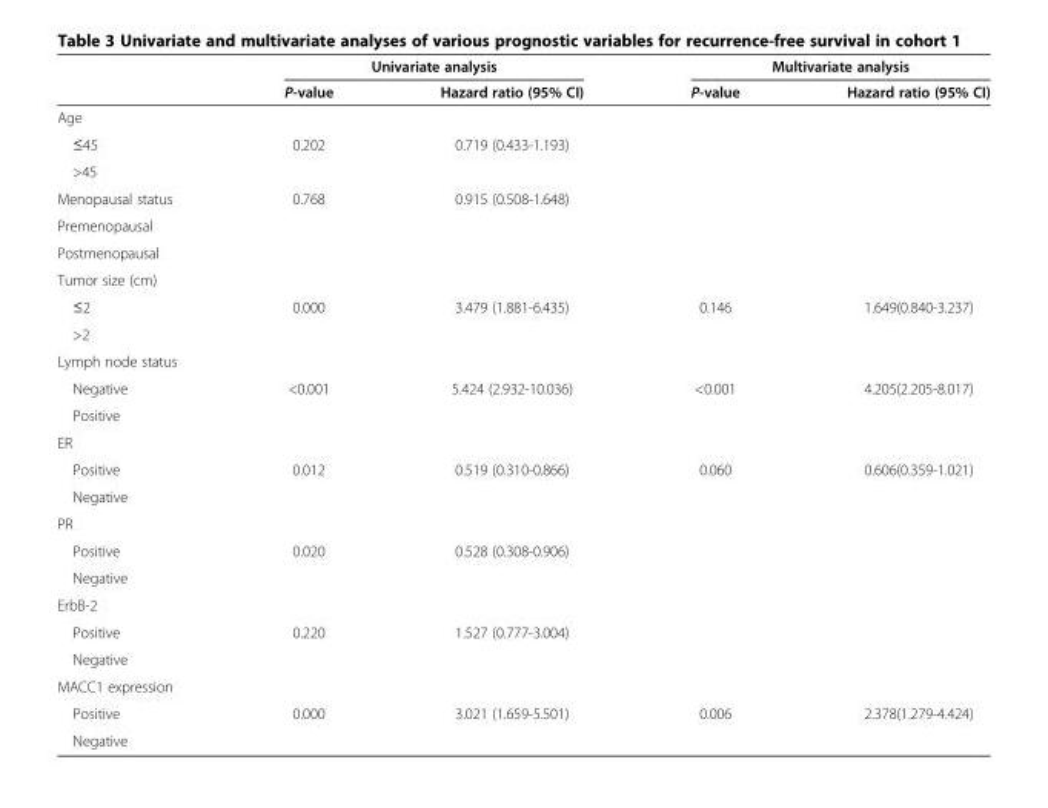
<table><thead><tr><td rowspan="2"></td><td colspan="2">Univariate analysis</td><td colspan="2">Multivariate analysis</td></tr><tr><td>P-value</td><td>Hazard ratio (95% CI)</td><td>P-value</td><td>Hazard ratio (95% CI)</td></tr></thead><tbody><tr><td colspan="5">Age</td></tr><tr><td>≤45</td><td>0.202</td><td>0.719 (0.433-1.193)</td><td></td><td></td></tr><tr><td colspan="5">&gt;45</td></tr><tr><td>Menopausal status</td><td>0.768</td><td>0.915 (0.508-1.648)</td><td></td><td></td></tr><tr><td colspan="5">Premenopausal</td></tr><tr><td colspan="5">Postmenopausal</td></tr><tr><td colspan="5">Tumor size (cm)</td></tr><tr><td>≤2</td><td rowspan="2">0.000</td><td rowspan="2">3.479 (1.881-6.435)</td><td rowspan="2">0.146</td><td rowspan="2">1.649(0.840-3.237)</td></tr><tr><td>&gt;2</td></tr><tr><td colspan="5">Lymph node status</td></tr><tr><td>Negative</td><td rowspan="2">&lt;0.001</td><td rowspan="2">5.424 (2.932-10.036)</td><td rowspan="2">&lt;0.001</td><td rowspan="2">4.205(2.205-8.017)</td></tr><tr><td>Positive</td></tr><tr><td colspan="5">ER</td></tr><tr><td>Positive</td><td rowspan="2">0.012</td><td rowspan="2">0.519 (0.310-0.866)</td><td rowspan="2">0.060</td><td rowspan="2">0.606(0.359-1.021)</td></tr><tr><td>Negative</td></tr><tr><td colspan="5">PR</td></tr><tr><td>Positive</td><td rowspan="2">0.020</td><td rowspan="2">0.528 (0.308-0.906)</td><td rowspan="2"></td><td rowspan="2"></td></tr><tr><td>Negative</td></tr><tr><td colspan="5">ErbB-2</td></tr><tr><td>Positive</td><td rowspan="2">0.220</td><td rowspan="2">1.527 (0.777-3.004)</td><td rowspan="2"></td><td rowspan="2"></td></tr><tr><td>Negative</td></tr><tr><td colspan="5">MACC1 expression</td></tr><tr><td>Positive</td><td rowspan="2">0.000</td><td rowspan="2">3.021 (1.659-5.501)</td><td rowspan="2">0.006</td><td rowspan="2">2.378(1.279-4.424)</td></tr><tr><td>Negative</td></tr></tbody></table>